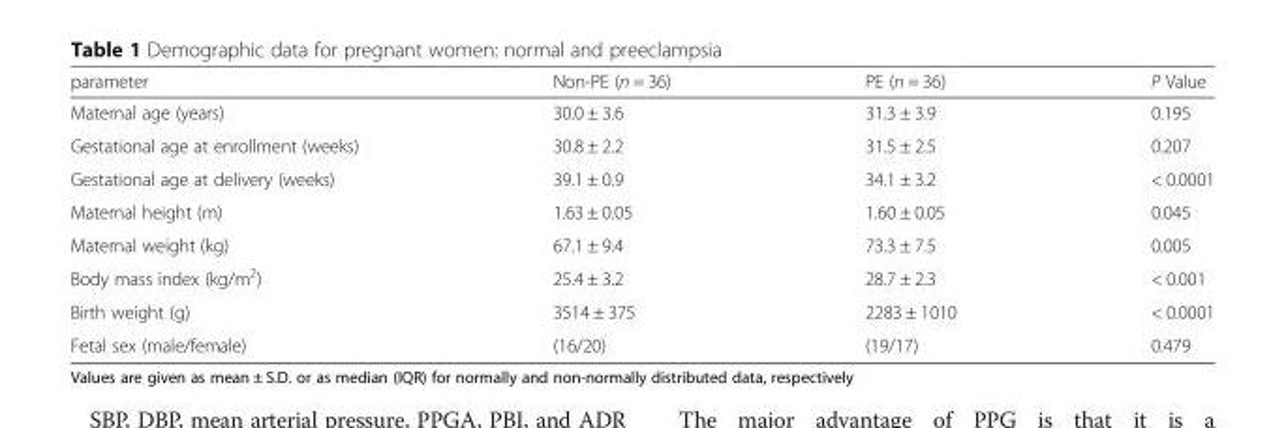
<table><thead><tr><td>parameter</td><td>Non-PE (n = 36)</td><td>PE (n = 36)</td><td>P Value</td></tr></thead><tbody><tr><td>Maternal age (years)</td><td>30.0 ± 3.6</td><td>31.3 ± 3.9</td><td>0.195</td></tr><tr><td>Gestational age at enrollment (weeks)</td><td>30.8 ± 2.2</td><td>31.5 ± 2.5</td><td>0.207</td></tr><tr><td>Gestational age at delivery (weeks)</td><td>39.1 ± 0.9</td><td>34.1 ± 3.2</td><td>&lt; 0.0001</td></tr><tr><td>Maternal height (m)</td><td>1.63 ± 0.05</td><td>1.60 ± 0.05</td><td>0.045</td></tr><tr><td>Maternal weight (kg)</td><td>67.1 ± 9.4</td><td>73.3 ± 7.5</td><td>0.005</td></tr><tr><td>Body mass index (kg/m<sup>2</sup>)</td><td>25.4 ± 3.2</td><td>28.7 ± 2.3</td><td>&lt; 0.001</td></tr><tr><td>Birth weight (g)</td><td>3514 ± 375</td><td>2283 ± 1010</td><td>&lt; 0.0001</td></tr><tr><td>Fetal sex (male/female)</td><td>(16/20)</td><td>(19/17)</td><td>0.479</td></tr></tbody></table>